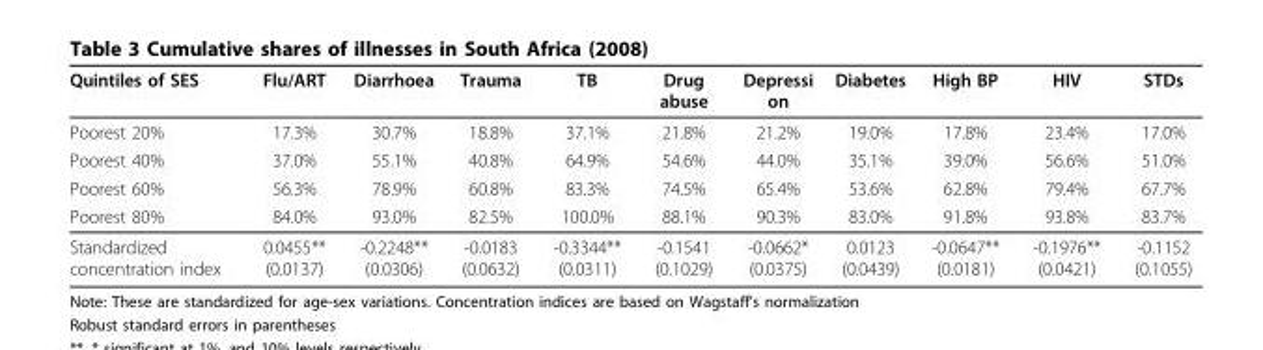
<table><tbody><tr><td>Quintiles of SES</td><td>Flu/ART</td><td>Diarrhoea</td><td>Trauma</td><td>TB</td><td>Drug abuse</td><td>Depressi on</td><td>Diabetes</td><td>High BP</td><td>HIV</td><td>STDs</td></tr><tr><td>Poorest 20%</td><td>17.3%</td><td>30.7%</td><td>18.8%</td><td>37.1%</td><td>21.8%</td><td>21.2%</td><td>19.0%</td><td>17.8%</td><td>23.4%</td><td>17.0%</td></tr><tr><td>Poorest 40%</td><td>37.0%</td><td>55.1%</td><td>40.8%</td><td>64.9%</td><td>54.6%</td><td>44.0%</td><td>35.1%</td><td>39.0%</td><td>56.6%</td><td>51.0%</td></tr><tr><td>Poorest 60%</td><td>56.3%</td><td>78.9%</td><td>60.8%</td><td>83.3%</td><td>74.5%</td><td>65.4%</td><td>53.6%</td><td>62.8%</td><td>79.4%</td><td>67.7%</td></tr><tr><td>Poorest 80%</td><td>84.0%</td><td>93.0%</td><td>82.5%</td><td>100.0%</td><td>88.1%</td><td>90.3%</td><td>83.0%</td><td>91.8%</td><td>93.8%</td><td>83.7%</td></tr><tr><td>Standardized concentration index</td><td>0.0455** (0.0137)</td><td>-0.2248** (0.0306)</td><td>-0.0183 (0.0632)</td><td>-0.3344** (0.0311)</td><td>-0.1541 (0.1029)</td><td>-0.0662* (0.0375)</td><td>0.0123 (0.0439)</td><td>-0.0647** (0.0181)</td><td>-0.1976** (0.0421)</td><td>-0.1152 (0.1055)</td></tr></tbody></table>